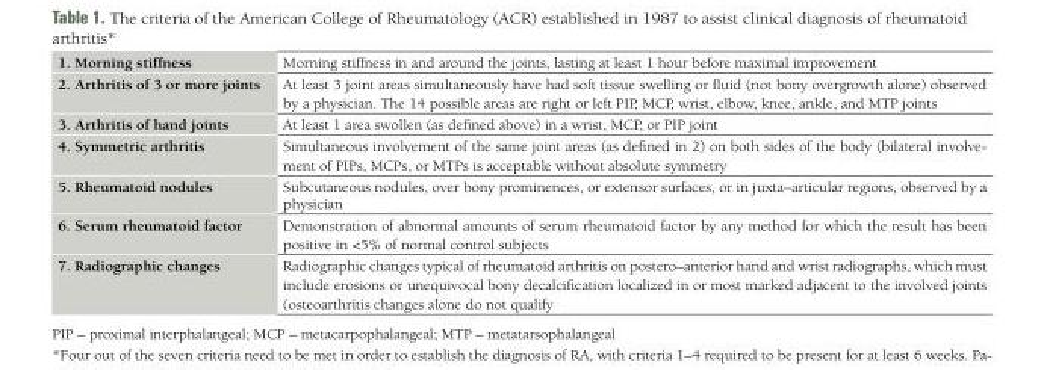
<table><tbody><tr><td>1. Morning stiffness</td><td>Morning stiffness in and around the joints, lasting at least 1 hour before maximal improvement</td></tr><tr><td>2. Arthritis of 3 or more joints</td><td>At least 3 joint areas simultaneously have had soft tissue swelling or fluid (not bony overgrowth alone) observed by a physician. The 14 possible areas are right or left PIP, MCP, wrist, elbow, knee, ankle, and MTP joints</td></tr><tr><td>3. Arthritis of hand joints</td><td>At least 1 area swollen (as defined above) in a wrist, MCP, or PIP joint</td></tr><tr><td>4. Symmetric arthritis</td><td>Simultaneous involvement of the same joint areas (as defined in 2) on both sides of the body (bilateral involve- ment of PIPs, MCPs, or MTPs is acceptable without absolute symmetry</td></tr><tr><td>5. Rheumatoid nodules</td><td>Subcutaneous nodules, over bony prominences, or extensor surfaces, or in juxta–articular regions, observed by a physician</td></tr><tr><td>6. Serum rheumatoid factor</td><td>Demonstration of abnormal amounts of serum rheumatoid factor by any method for which the result has been positive in &lt;5% of normal control subjects</td></tr><tr><td>7. Radiographic changes</td><td>Radiographic changes typical of rheumatoid arthritis on postero–anterior hand and wrist radiographs, which must include erosions or unequivocal bony decalcification localized in or most marked adjacent to the involved joints (osteoarthritis changes alone do not qualify</td></tr></tbody></table>